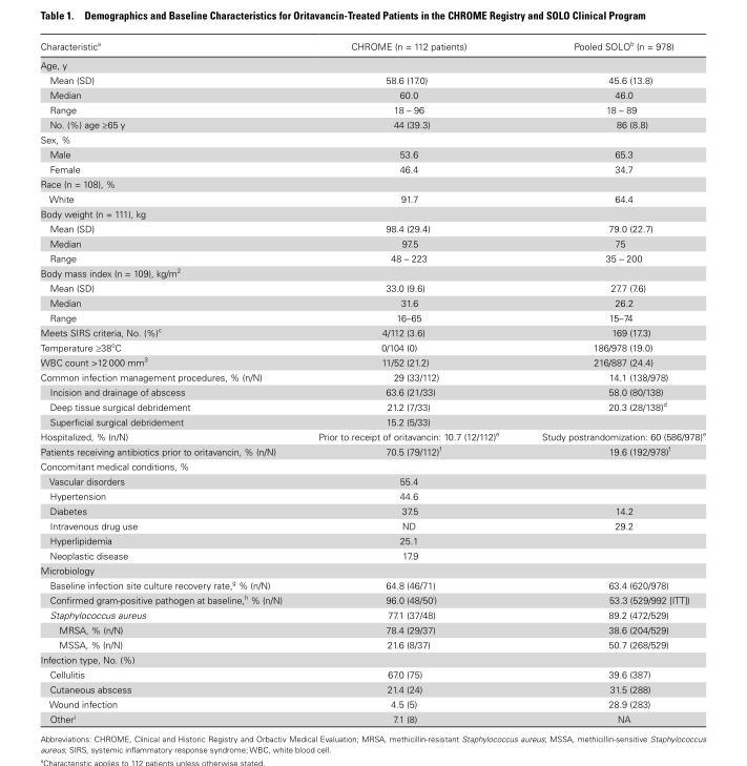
<table><thead><tr><td>Characteristic<sup>a</sup></td><td>CHROME (n = 112 patients)</td><td>Pooled SOLO<sup>b</sup> (n = 978)</td></tr></thead><tbody><tr><td colspan="3">Age, y</td></tr><tr><td>Mean (SD)</td><td>58.6 (17.0)</td><td>45.6 (13.8)</td></tr><tr><td>Median</td><td>60.0</td><td>46.0</td></tr><tr><td>Range</td><td>18 – 96</td><td>18 – 89</td></tr><tr><td>No. (%) age ≥65 y</td><td>44 (39.3)</td><td>86 (8.8)</td></tr><tr><td colspan="3">Sex, %</td></tr><tr><td>Male</td><td>53.6</td><td>65.3</td></tr><tr><td>Female</td><td>46.4</td><td>34.7</td></tr><tr><td colspan="3">Race (n = 108), %</td></tr><tr><td>White</td><td>91.7</td><td>64.4</td></tr><tr><td colspan="3">Body weight (n = 111), kg</td></tr><tr><td>Mean (SD)</td><td>98.4 (29.4)</td><td>79.0 (22.7)</td></tr><tr><td>Median</td><td>97.5</td><td>75</td></tr><tr><td>Range</td><td>48 – 223</td><td>35 – 200</td></tr><tr><td colspan="3">Body mass index (n = 109), kg/m<sup>2</sup></td></tr><tr><td>Mean (SD)</td><td>33.0 (9.6)</td><td>27.7 (7.6)</td></tr><tr><td>Median</td><td>31.6</td><td>26.2</td></tr><tr><td>Range</td><td>16–65</td><td>15–74</td></tr><tr><td>Meets SIRS criteria, No. (%)<sup>c</sup></td><td>4/112 (3.6)</td><td>169 (17.3)</td></tr><tr><td>Temperature ≥38<sup>o</sup>C</td><td>0/104 (0)</td><td>186/978 (19.0)</td></tr><tr><td>WBC count &gt;12 000 mm<sup>3</sup></td><td>11/52 (21.2)</td><td>216/887 (24.4)</td></tr><tr><td>Common infection management procedures, % (n/N)</td><td>29 (33/112)</td><td>14.1 (138/978)</td></tr><tr><td>Incision and drainage of abscess</td><td>63.6 (21/33)</td><td>58.0 (80/138)</td></tr><tr><td>Deep tissue surgical debridement</td><td>21.2 (7/33)</td><td>20.3 (28/138)<sup>d</sup></td></tr><tr><td>Superficial surgical debridement</td><td>15.2 (5/33)</td><td></td></tr><tr><td>Hospitalized, % (n/N)</td><td>Prior to receipt of oritavancin: 10.7 (12/112)<sup>e</sup></td><td>Study postrandomization: 60 (586/978)<sup>e</sup></td></tr><tr><td>Patients receiving antibiotics prior to oritavancin, % (n/N)</td><td>70.5 (79/112)<sup>f</sup></td><td>19.6 (192/978)<sup>f</sup></td></tr><tr><td colspan="3">Concomitant medical conditions, %</td></tr><tr><td>Vascular disorders</td><td>55.4</td><td></td></tr><tr><td>Hypertension</td><td>44.6</td><td></td></tr><tr><td>Diabetes</td><td>37.5</td><td>14.2</td></tr><tr><td>Intravenous drug use</td><td>ND</td><td>29.2</td></tr><tr><td>Hyperlipidemia</td><td>25.1</td><td></td></tr><tr><td>Neoplastic disease</td><td>17.9</td><td></td></tr><tr><td colspan="3">Microbiology</td></tr><tr><td>Baseline infection site culture recovery rate,<sup>g</sup> % (n/N)</td><td>64.8 (46/71)</td><td>63.4 (620/978)</td></tr><tr><td>Confirmed gram-positive pathogen at baseline,<sup>h</sup> % (n/N)</td><td>96.0 (48/50<sup>i</sup>)</td><td>53.3 (529/992 [ITT])</td></tr><tr><td>Staphylococcus aureus</td><td>77.1 (37/48)</td><td>89.2 (472/529)</td></tr><tr><td>MRSA, % (n/N)</td><td>78.4 (29/37)</td><td>38.6 (204/529)</td></tr><tr><td>MSSA, % (n/N)</td><td>21.6 (8/37)</td><td>50.7 (268/529)</td></tr><tr><td colspan="3">Infection type, No. (%)</td></tr><tr><td>Cellulitis</td><td>67.0 (75)</td><td>39.6 (387)</td></tr><tr><td>Cutaneous abscess</td><td>21.4 (24)</td><td>31.5 (288)</td></tr><tr><td>Wound infection</td><td>4.5 (5)</td><td>28.9 (283)</td></tr><tr><td>Other<sup>j</sup></td><td>7.1 (8)</td><td>NA</td></tr></tbody></table>